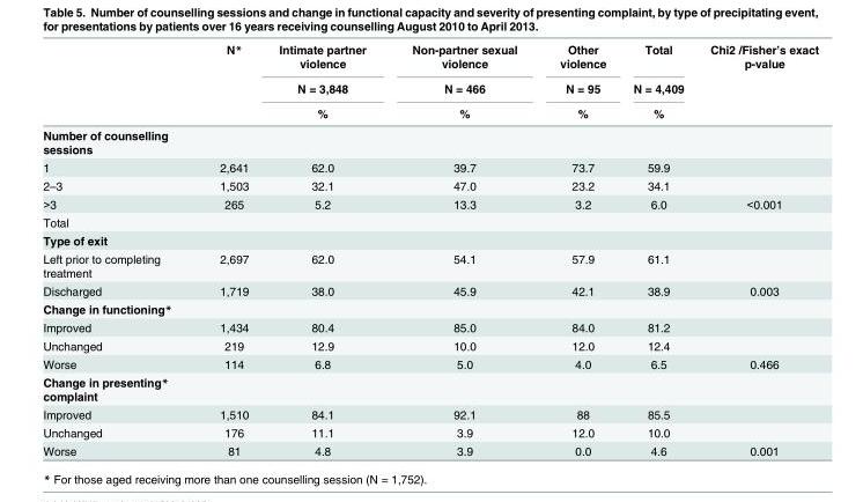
<table><thead><tr><td rowspan="3"></td><td rowspan="3">N*</td><td rowspan="3">Intimate partner violence N = 3,848 %</td><td rowspan="3">Non-partner sexual violence N = 466 %</td><td rowspan="3">Other violence N = 95 %</td><td rowspan="3">Total N = 4,409 %</td><td rowspan="3">Chi2 /Fisher’s exact p-value</td></tr><tr></tr><tr></tr></thead><tbody><tr><td colspan="7">Number of counselling sessions</td></tr><tr><td>1</td><td>2,641</td><td>62.0</td><td>39.7</td><td>73.7</td><td>59.9</td><td></td></tr><tr><td>2–3</td><td>1,503</td><td>32.1</td><td>47.0</td><td>23.2</td><td>34.1</td><td></td></tr><tr><td>&gt;3</td><td>265</td><td>5.2</td><td>13.3</td><td>3.2</td><td>6.0</td><td>&lt;0.001</td></tr><tr><td colspan="7">Total</td></tr><tr><td colspan="7">Type of exit</td></tr><tr><td>Left prior to completing treatment</td><td>2,697</td><td>62.0</td><td>54.1</td><td>57.9</td><td>61.1</td><td></td></tr><tr><td>Discharged</td><td>1,719</td><td>38.0</td><td>45.9</td><td>42.1</td><td>38.9</td><td>0.003</td></tr><tr><td colspan="7">Change in functioning*</td></tr><tr><td>Improved</td><td>1,434</td><td>80.4</td><td>85.0</td><td>84.0</td><td>81.2</td><td></td></tr><tr><td>Unchanged</td><td>219</td><td>12.9</td><td>10.0</td><td>12.0</td><td>12.4</td><td></td></tr><tr><td>Worse</td><td>114</td><td>6.8</td><td>5.0</td><td>4.0</td><td>6.5</td><td>0.466</td></tr><tr><td colspan="7">Change in presenting* complaint</td></tr><tr><td>Improved</td><td>1,510</td><td>84.1</td><td>92.1</td><td>88</td><td>85.5</td><td></td></tr><tr><td>Unchanged</td><td>176</td><td>11.1</td><td>3.9</td><td>12.0</td><td>10.0</td><td></td></tr><tr><td>Worse</td><td>81</td><td>4.8</td><td>3.9</td><td>0.0</td><td>4.6</td><td>0.001</td></tr></tbody></table>